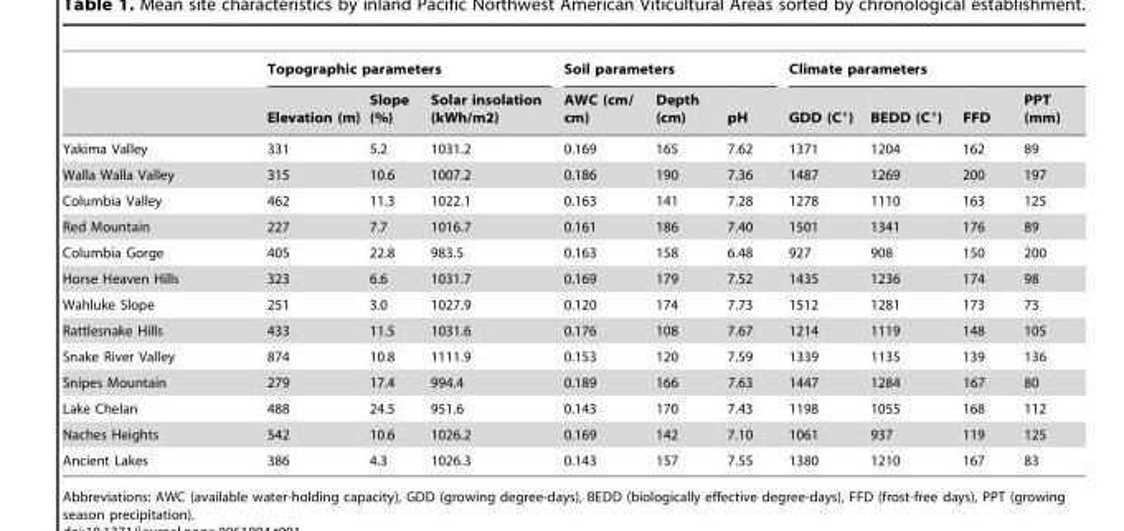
<table><thead><tr><td rowspan="2"></td><td colspan="3">Topographic parameters</td><td colspan="3">Soil parameters</td><td colspan="4">Climate parameters</td></tr><tr><td>Elevation (m)</td><td>Slope (%)</td><td>Solar insolation (kWh/m2)</td><td>AWC (cm/ cm)</td><td>Depth (cm)</td><td>pH</td><td>GDD (C°)</td><td>BEDD (C°)</td><td>FFD</td><td>PPT (mm)</td></tr></thead><tbody><tr><td>Yakima Valley</td><td>331</td><td>5.2</td><td>1031.2</td><td>0.169</td><td>165</td><td>7.62</td><td>1371</td><td>1204</td><td>162</td><td>89</td></tr><tr><td>Walla Walla Valley</td><td>315</td><td>10.6</td><td>1007.2</td><td>0.186</td><td>190</td><td>7.36</td><td>1487</td><td>1269</td><td>200</td><td>197</td></tr><tr><td>Columbia Valley</td><td>462</td><td>11.3</td><td>1022.1</td><td>0.163</td><td>141</td><td>7.28</td><td>1278</td><td>1110</td><td>163</td><td>125</td></tr><tr><td>Red Mountain</td><td>227</td><td>7.7</td><td>1016.7</td><td>0.161</td><td>186</td><td>7.40</td><td>1501</td><td>1341</td><td>176</td><td>89</td></tr><tr><td>Columbia Gorge</td><td>405</td><td>22.8</td><td>983.5</td><td>0.163</td><td>158</td><td>6.48</td><td>927</td><td>908</td><td>150</td><td>200</td></tr><tr><td>Horse Heaven Hills</td><td>323</td><td>6.6</td><td>1031.7</td><td>0.169</td><td>179</td><td>7.52</td><td>1435</td><td>1236</td><td>174</td><td>98</td></tr><tr><td>Wahluke Slope</td><td>251</td><td>3.0</td><td>1027.9</td><td>0.120</td><td>174</td><td>7.73</td><td>1512</td><td>1281</td><td>173</td><td>73</td></tr><tr><td>Rattlesnake Hills</td><td>433</td><td>11.5</td><td>1031.6</td><td>0.176</td><td>108</td><td>7.67</td><td>1214</td><td>1119</td><td>148</td><td>105</td></tr><tr><td>Snake River Valley</td><td>874</td><td>10.8</td><td>1111.9</td><td>0.153</td><td>120</td><td>7.59</td><td>1339</td><td>1135</td><td>139</td><td>136</td></tr><tr><td>Snipes Mountain</td><td>279</td><td>17.4</td><td>994.4</td><td>0.189</td><td>166</td><td>7.63</td><td>1447</td><td>1284</td><td>167</td><td>80</td></tr><tr><td>Lake Chelan</td><td>488</td><td>24.5</td><td>951.6</td><td>0.143</td><td>170</td><td>7.43</td><td>1198</td><td>1055</td><td>168</td><td>112</td></tr><tr><td>Naches Heights</td><td>542</td><td>10.6</td><td>1026.2</td><td>0.169</td><td>142</td><td>7.10</td><td>1061</td><td>937</td><td>119</td><td>125</td></tr><tr><td>Ancient Lakes</td><td>386</td><td>4.3</td><td>1026.3</td><td>0.143</td><td>157</td><td>7.55</td><td>1380</td><td>1210</td><td>167</td><td>83</td></tr></tbody></table>